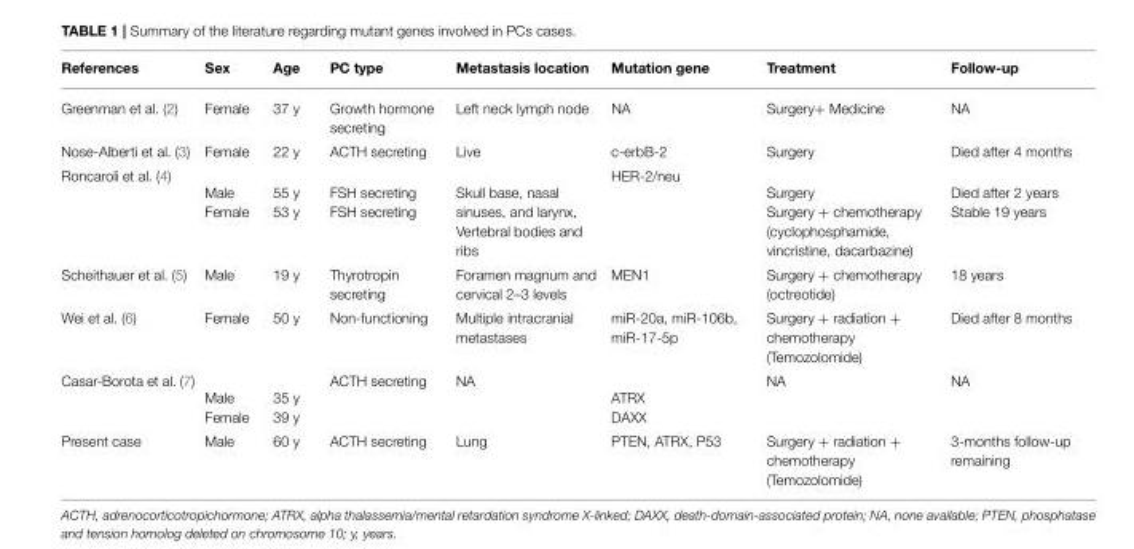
<table><thead><tr><td>References</td><td>Sex</td><td>Age</td><td>PC type</td><td>Metastasis location</td><td>Mutation gene</td><td>Treatment</td><td>Follow-up</td></tr></thead><tbody><tr><td>Greenman et al. (2)</td><td>Female</td><td>37 y</td><td>Growth hormone secreting</td><td>Left neck lymph node</td><td>NA</td><td>Surgery+ Medicine</td><td>NA</td></tr><tr><td>Nose-Alberti et al. (3)</td><td>Female</td><td>22 y</td><td>ACTH secreting</td><td>Live</td><td>c-erbB-2</td><td>Surgery</td><td>Died after 4 months</td></tr><tr><td>Roncaroli et al. (4)</td><td>Male Female</td><td>55 y 53 y</td><td>FSH secreting FSH secreting</td><td>Skull base, nasal sinuses, and larynx, Vertebral bodies and ribs</td><td>HER-2/neu</td><td>Surgery Surgery + chemotherapy (cyclophosphamide, vincristine, dacarbazine)</td><td>Died after 2 years Stable 19 years</td></tr><tr><td>Scheithauer et al. (5)</td><td>Male</td><td>19 y</td><td>Thyrotropin secreting</td><td>Foramen magnum and cervical 2–3 levels</td><td>MEN1</td><td>Surgery + chemotherapy (octreotide)</td><td>18 years</td></tr><tr><td>Wei et al. (6)</td><td>Female</td><td>50 y</td><td>Non-functioning</td><td>Multiple intracranial metastases</td><td>miR-20a, miR-106b, miR-17-5p</td><td>Surgery + radiation + chemotherapy (Temozolomide)</td><td>Died after 8 months</td></tr><tr><td>Casar-Borota et al. (7)</td><td>Male Female</td><td>35 y 39 y</td><td>ACTH secreting</td><td>NA</td><td>ATRX DAXX</td><td>NA</td><td>NA</td></tr><tr><td>Present case</td><td>Male</td><td>60 y</td><td>ACTH secreting</td><td>Lung</td><td>PTEN, ATRX, P53</td><td>Surgery + radiation + chemotherapy (Temozolomide)</td><td>3-months follow-up remaining</td></tr></tbody></table>